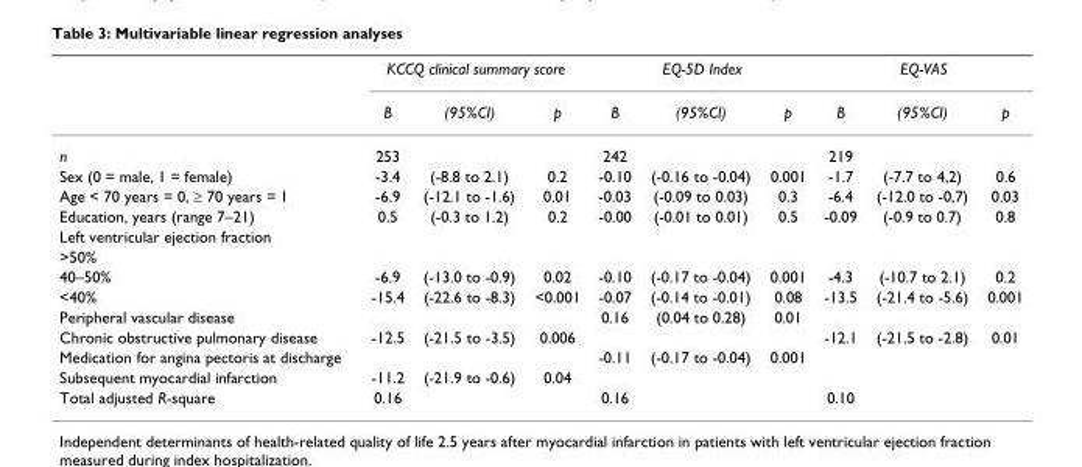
<table><thead><tr><td rowspan="2"></td><td colspan="3">KCCQ clinical summary score</td><td colspan="3">EQ-5D Index</td><td colspan="3">EQ-VAS</td></tr><tr><td>B</td><td>(95%CI)</td><td>p</td><td>B</td><td>(95%CI)</td><td>p</td><td>B</td><td>(95%CI)</td><td>p</td></tr></thead><tbody><tr><td>n</td><td>253</td><td></td><td></td><td>242</td><td></td><td></td><td>219</td><td></td><td></td></tr><tr><td>Sex (0 = male, 1 = female)</td><td>-3.4</td><td>(-8.8 to 2.1)</td><td>0.2</td><td>-0.10</td><td>(-0.16 to -0.04)</td><td>0.001</td><td>-1.7</td><td>(-7.7 to 4,2)</td><td>0.6</td></tr><tr><td>Age &lt; 70 years = 0, ≥ 70 years = 1</td><td>-6.9</td><td>(-12.1 to -1.6)</td><td>0.01</td><td>-0.03</td><td>(-0.09 to 0.03)</td><td>0.3</td><td>-6.4</td><td>(-12.0 to -0,7)</td><td>0.03</td></tr><tr><td>Education, years (range 7–21)</td><td>0.5</td><td>(-0.3 to 1.2)</td><td>0.2</td><td>-0.00</td><td>(-0.01 to 0.01)</td><td>0.5</td><td>-0.09</td><td>(-0.9 to 0.7)</td><td>0.8</td></tr><tr><td colspan="10">Left ventricular ejection fraction</td></tr><tr><td colspan="10">&gt;50%</td></tr><tr><td>40–50%</td><td>-6.9</td><td>(-13.0 to -0.9)</td><td>0.02</td><td>-0.10</td><td>(-0.17 to -0.04)</td><td>0.001</td><td>-4.3</td><td>(-10.7 to 2.1)</td><td>0.2</td></tr><tr><td>&lt;40%</td><td>-15.4</td><td>(-22.6 to -8.3)</td><td>&lt;0.001</td><td>-0.07</td><td>(-0.14 to -0.01)</td><td>0.08</td><td>-13.5</td><td>(-21.4 to -5.6)</td><td>0.001</td></tr><tr><td>Peripheral vascular disease</td><td></td><td></td><td></td><td>0.16</td><td>(0.04 to 0.28)</td><td>0.01</td><td></td><td></td><td></td></tr><tr><td>Chronic obstructive pulmonary disease</td><td>-12.5</td><td>(-21.5 to -3.5)</td><td>0.006</td><td></td><td></td><td></td><td>-12.1</td><td>(-21.5 to -2.8)</td><td>0.01</td></tr><tr><td>Medication for angina pectoris at discharge</td><td></td><td></td><td></td><td>-0.11</td><td>(-0.17 to -0.04)</td><td>0.001</td><td></td><td></td><td></td></tr><tr><td>Subsequent myocardial infarction</td><td>-11.2</td><td>(-21.9 to -0.6)</td><td>0.04</td><td></td><td></td><td></td><td></td><td></td><td></td></tr><tr><td>Total adjusted R-square</td><td>0.16</td><td></td><td></td><td>0.16</td><td></td><td></td><td>0.10</td><td></td><td></td></tr></tbody></table>